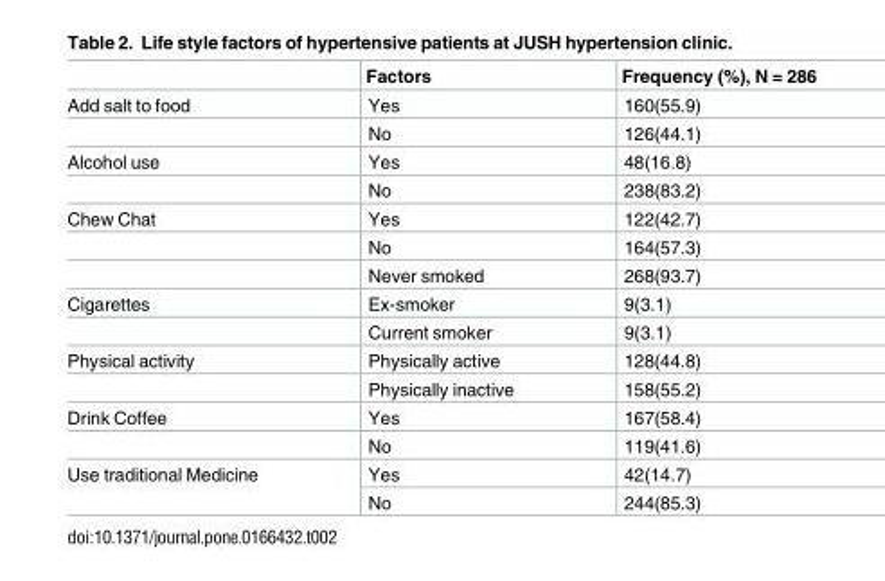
<table><thead><tr><td></td><td>Factors</td><td>Frequency (%), N = 286</td></tr></thead><tbody><tr><td rowspan="2">Add salt to food</td><td>Yes</td><td>160(55.9)</td></tr><tr><td>No</td><td>126(44.1)</td></tr><tr><td rowspan="2">Alcohol use</td><td>Yes</td><td>48(16.8)</td></tr><tr><td>No</td><td>238(83.2)</td></tr><tr><td rowspan="3">Chew Chat</td><td>Yes</td><td>122(42.7)</td></tr><tr><td>No</td><td>164(57.3)</td></tr><tr><td>Never smoked</td><td>268(93.7)</td></tr><tr><td rowspan="2">Cigarettes</td><td>Ex-smoker</td><td>9(3.1)</td></tr><tr><td>Current smoker</td><td>9(3.1)</td></tr><tr><td rowspan="2">Physical activity</td><td>Physically active</td><td>128(44.8)</td></tr><tr><td>Physically inactive</td><td>158(55.2)</td></tr><tr><td rowspan="2">Drink Coffee</td><td>Yes</td><td>167(58.4)</td></tr><tr><td>No</td><td>119(41.6)</td></tr><tr><td rowspan="2">Use traditional Medicine</td><td>Yes</td><td>42(14.7)</td></tr><tr><td>No</td><td>244(85.3)</td></tr></tbody></table>